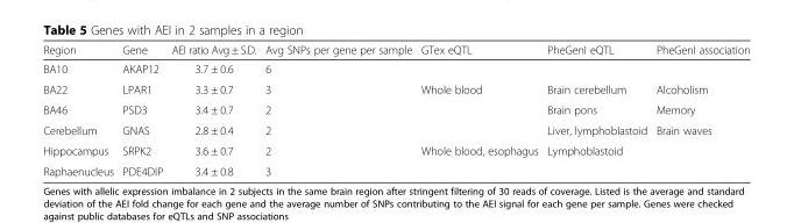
<table><thead><tr><td>Region</td><td>Gene</td><td>AEI ratio Avg ± S.D.</td><td>Avg SNPs per gene per sample</td><td>GTex eQTL</td><td>PheGenI eQTL</td><td>PheGenI association</td></tr></thead><tbody><tr><td>BA10</td><td>AKAP12</td><td>3.7 ± 0.6</td><td>6</td><td></td><td></td><td></td></tr><tr><td>BA22</td><td>LPAR1</td><td>3.3 ± 0.7</td><td>3</td><td>Whole blood</td><td>Brain cerebellum</td><td>Alcoholism</td></tr><tr><td>BA46</td><td>PSD3</td><td>3.4 ± 0.7</td><td>2</td><td></td><td>Brain pons</td><td>Memory</td></tr><tr><td>Cerebellum</td><td>GNAS</td><td>2.8 ± 0.4</td><td>2</td><td></td><td>Liver, lymphoblastoid</td><td>Brain waves</td></tr><tr><td>Hippocampus</td><td>SRPK2</td><td>3.6 ± 0.7</td><td>2</td><td>Whole blood, esophagus</td><td>Lymphoblastoid</td><td></td></tr><tr><td>Raphaenucleus</td><td>PDE4DIP</td><td>3.4 ± 0.8</td><td>3</td><td></td><td></td><td></td></tr></tbody></table>